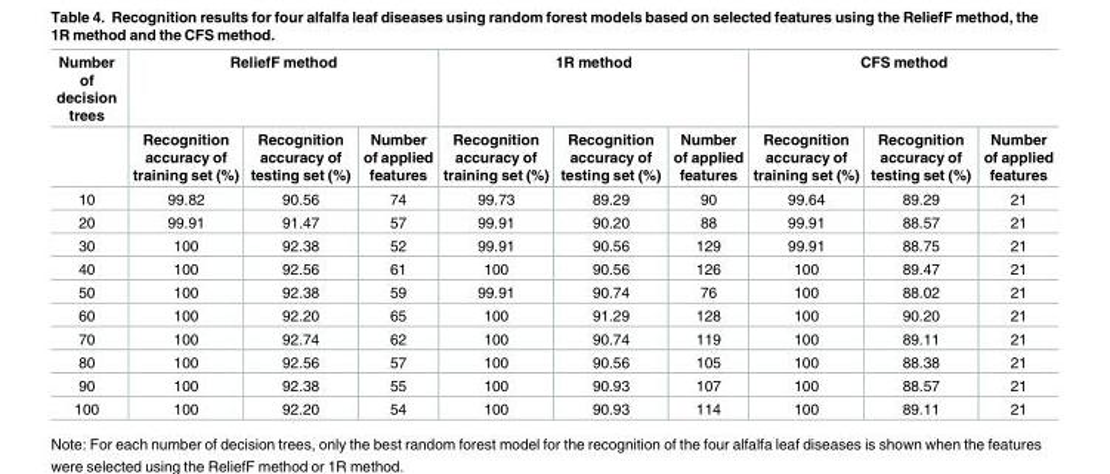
<table><thead><tr><td rowspan="2">Number of decision trees</td><td colspan="3">ReliefF method</td><td colspan="3">1R method</td><td colspan="3">CFS method</td></tr><tr><td>Recognition accuracy of training set (%)</td><td>Recognition accuracy of testing set (%)</td><td>Number of applied features</td><td>Recognition accuracy of training set (%)</td><td>Recognition accuracy of testing set (%)</td><td>Number of applied features</td><td>Recognition accuracy of training set (%)</td><td>Recognition accuracy of testing set (%)</td><td>Number of applied features</td></tr></thead><tbody><tr><td>10</td><td>99.82</td><td>90.56</td><td>74</td><td>99.73</td><td>89.29</td><td>90</td><td>99.64</td><td>89.29</td><td>21</td></tr><tr><td>20</td><td>99.91</td><td>91.47</td><td>57</td><td>99.91</td><td>90.20</td><td>88</td><td>99.91</td><td>88.57</td><td>21</td></tr><tr><td>30</td><td>100</td><td>92.38</td><td>52</td><td>99.91</td><td>90.56</td><td>129</td><td>99.91</td><td>88.75</td><td>21</td></tr><tr><td>40</td><td>100</td><td>92.56</td><td>61</td><td>100</td><td>90.56</td><td>126</td><td>100</td><td>89.47</td><td>21</td></tr><tr><td>50</td><td>100</td><td>92.38</td><td>59</td><td>99.91</td><td>90.74</td><td>76</td><td>100</td><td>88.02</td><td>21</td></tr><tr><td>60</td><td>100</td><td>92.20</td><td>65</td><td>100</td><td>91.29</td><td>128</td><td>100</td><td>90.20</td><td>21</td></tr><tr><td>70</td><td>100</td><td>92.74</td><td>62</td><td>100</td><td>90.74</td><td>119</td><td>100</td><td>89.11</td><td>21</td></tr><tr><td>80</td><td>100</td><td>92.56</td><td>57</td><td>100</td><td>90.56</td><td>105</td><td>100</td><td>88.38</td><td>21</td></tr><tr><td>90</td><td>100</td><td>92.38</td><td>55</td><td>100</td><td>90.93</td><td>107</td><td>100</td><td>88.57</td><td>21</td></tr><tr><td>100</td><td>100</td><td>92.20</td><td>54</td><td>100</td><td>90.93</td><td>114</td><td>100</td><td>89.11</td><td>21</td></tr></tbody></table>